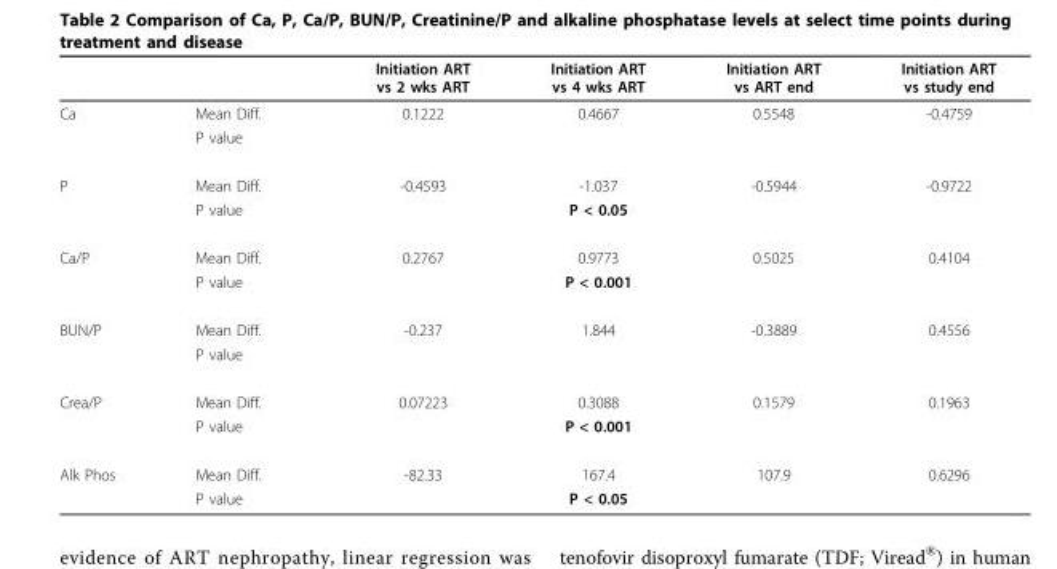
<table><thead><tr><td></td><td></td><td>Initiation ART vs 2 wks ART</td><td>Initiation ART vs 4 wks ART</td><td>Initiation ART vs ART end</td><td>Initiation ART vs study end</td></tr></thead><tbody><tr><td rowspan="2">Ca</td><td>Mean Diff.</td><td>0.1222</td><td>0.4667</td><td>0.5548</td><td>-0.4759</td></tr><tr><td>P value</td><td></td><td></td><td></td><td></td></tr><tr><td rowspan="2">P</td><td>Mean Diff.</td><td>-0.4593</td><td>-1.037</td><td>-0.5944</td><td>-0.9722</td></tr><tr><td>P value</td><td></td><td>P &lt; 0.05</td><td></td><td></td></tr><tr><td rowspan="2">Ca/P</td><td>Mean Diff.</td><td>0.2767</td><td>0.9773</td><td>0.5025</td><td>0.4104</td></tr><tr><td>P value</td><td></td><td>P &lt; 0.001</td><td></td><td></td></tr><tr><td rowspan="2">BUN/P</td><td>Mean Diff.</td><td>-0.237</td><td>1.844</td><td>-0.3889</td><td>0.4556</td></tr><tr><td>P value</td><td></td><td></td><td></td><td></td></tr><tr><td rowspan="2">Crea/P</td><td>Mean Diff.</td><td>0.07223</td><td>0.3088</td><td>0.1579</td><td>0.1963</td></tr><tr><td>P value</td><td></td><td>P &lt; 0.001</td><td></td><td></td></tr><tr><td rowspan="2">Alk Phos</td><td>Mean Diff.</td><td>-82.33</td><td>167.4</td><td>107.9</td><td>0.6296</td></tr><tr><td>P value</td><td></td><td>P &lt; 0.05</td><td></td><td></td></tr></tbody></table>